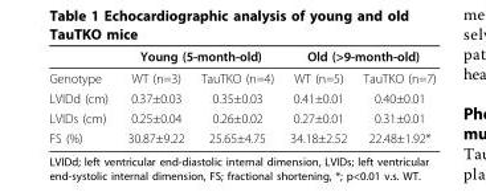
<table><thead><tr><td rowspan="2">Genotype</td><td colspan="2">Young (5-month-old)</td><td colspan="2">Old (&gt;9-month-old)</td></tr><tr><td>WT (n=3)</td><td>TauTKO (n=4)</td><td>WT (n=5)</td><td>TauTKO (n=7)</td></tr></thead><tbody><tr><td>LVIDd (cm)</td><td>0.37±0.03</td><td>0.35±0.03</td><td>0.41±0.01</td><td>0.40±0.01</td></tr><tr><td>LVIDs (cm)</td><td>0.25±0.04</td><td>0.26±0.02</td><td>0.27±0.01</td><td>0.31±0.01</td></tr><tr><td>FS (%)</td><td>30.87±9.22</td><td>25.65±4.75</td><td>34.18±2.52</td><td>22.48±1.92*</td></tr></tbody></table>